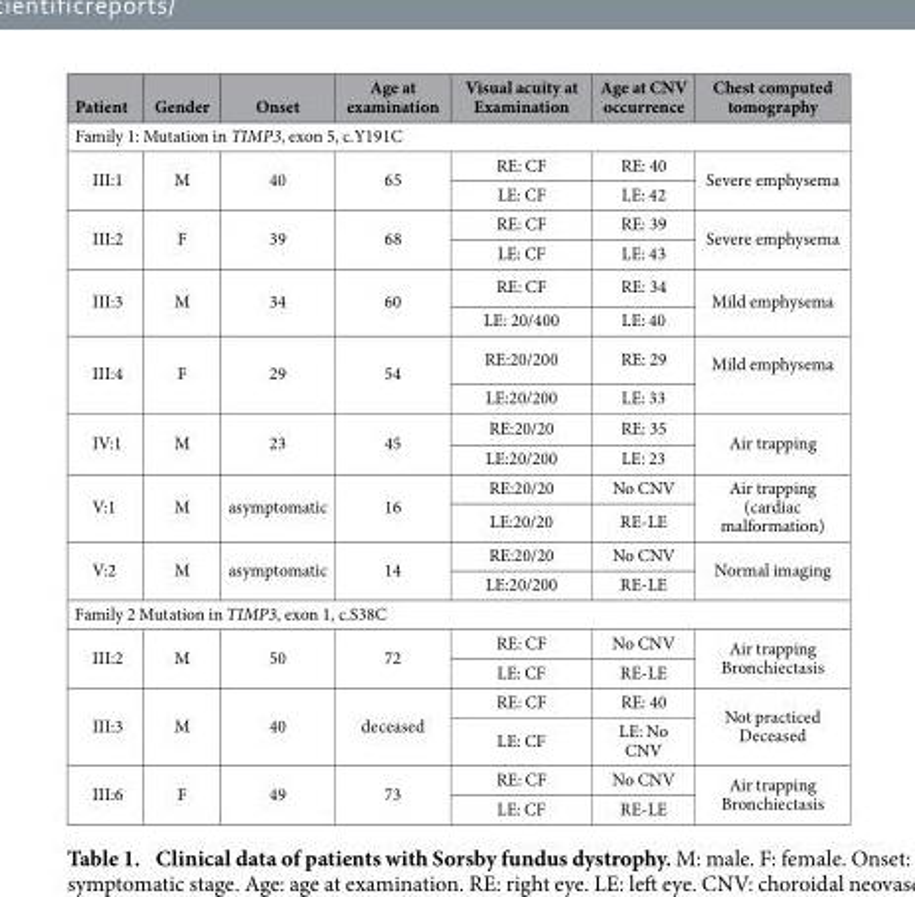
<table><thead><tr><td>Patient</td><td>Gender</td><td>Onset</td><td>Age at examination</td><td>Visual acuity at Examination</td><td>Age at CNV occurrence</td><td>Chest computed tomography</td></tr></thead><tbody><tr><td colspan="7">Family 1: Mutation in TIMP3, exon 5, c.Y191C</td></tr><tr><td rowspan="2">III:1</td><td rowspan="2">M</td><td rowspan="2">40</td><td rowspan="2">65</td><td>RE: CF</td><td>RE: 40</td><td rowspan="2">Severe emphysema</td></tr><tr><td>LE: CF</td><td>LE: 42</td></tr><tr><td rowspan="2">III:2</td><td rowspan="2">F</td><td rowspan="2">39</td><td rowspan="2">68</td><td>RE: CF</td><td>RE: 39</td><td rowspan="2">Severe emphysema</td></tr><tr><td>LE: CF</td><td>LE: 43</td></tr><tr><td rowspan="2">III:3</td><td rowspan="2">M</td><td rowspan="2">34</td><td rowspan="2">60</td><td>RE: CF</td><td>RE: 34</td><td rowspan="2">Mild emphysema</td></tr><tr><td>LE: 20/400</td><td>LE: 40</td></tr><tr><td rowspan="2">III:4</td><td rowspan="2">F</td><td rowspan="2">29</td><td rowspan="2">54</td><td>RE:20/200</td><td>RE: 29</td><td rowspan="2">Mild emphysema</td></tr><tr><td>LE:20/200</td><td>LE: 33</td></tr><tr><td rowspan="2">IV:1</td><td rowspan="2">M</td><td rowspan="2">23</td><td rowspan="2">45</td><td>RE:20/20</td><td>RE: 35</td><td rowspan="2">Air trapping</td></tr><tr><td>LE:20/200</td><td>LE: 23</td></tr><tr><td rowspan="2">V:1</td><td rowspan="2">M</td><td rowspan="2">asymptomatic</td><td rowspan="2">16</td><td>RE:20/20</td><td>No CNV</td><td rowspan="2">Air trapping (cardiac malformation)</td></tr><tr><td>LE:20/20</td><td>RE-LE</td></tr><tr><td rowspan="2">V:2</td><td rowspan="2">M</td><td rowspan="2">asymptomatic</td><td rowspan="2">14</td><td>RE:20/20</td><td>No CNV</td><td rowspan="2">Normal imaging</td></tr><tr><td>LE:20/200</td><td>RE-LE</td></tr><tr><td colspan="7">Family 2 Mutation in TIMP3, exon 1, c.S38C</td></tr><tr><td rowspan="2">III:2</td><td rowspan="2">M</td><td rowspan="2">50</td><td rowspan="2">72</td><td>RE: CF</td><td>No CNV</td><td rowspan="2">Air trapping Bronchiectasis</td></tr><tr><td>LE: CF</td><td>RE-LE</td></tr><tr><td rowspan="2">III:3</td><td rowspan="2">M</td><td rowspan="2">40</td><td rowspan="2">deceased</td><td>RE: CF</td><td>RE: 40</td><td rowspan="2">Not practiced Deceased</td></tr><tr><td>LE: CF</td><td>LE: No CNV</td></tr><tr><td rowspan="2">III:6</td><td rowspan="2">F</td><td rowspan="2">49</td><td rowspan="2">73</td><td>RE: CF</td><td>No CNV</td><td rowspan="2">Air trapping Bronchiectasis</td></tr><tr><td>LE: CF</td><td>RE-LE</td></tr></tbody></table>